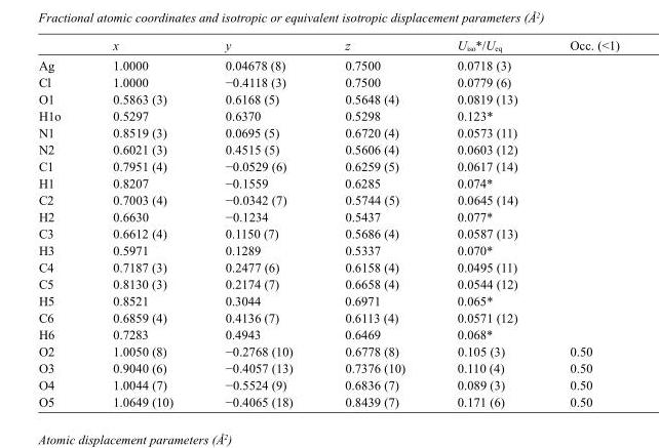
<table><thead><tr><td></td><td>x</td><td>y</td><td>z</td><td>U<sub>iso</sub>*/U<sub>eq</sub></td><td>Occ. (&lt;1)</td></tr></thead><tbody><tr><td>Ag</td><td>1.0000</td><td>0.04678 (8)</td><td>0.7500</td><td>0.0718 (3)</td><td></td></tr><tr><td>Cl</td><td>1.0000</td><td>−0.4118 (3)</td><td>0.7500</td><td>0.0779 (6)</td><td></td></tr><tr><td>O1</td><td>0.5863 (3)</td><td>0.6168 (5)</td><td>0.5648 (4)</td><td>0.0819 (13)</td><td></td></tr><tr><td>H1o</td><td>0.5297</td><td>0.6370</td><td>0.5298</td><td>0.123*</td><td></td></tr><tr><td>N1</td><td>0.8519 (3)</td><td>0.0695 (5)</td><td>0.6720 (4)</td><td>0.0573 (11)</td><td></td></tr><tr><td>N2</td><td>0.6021 (3)</td><td>0.4515 (5)</td><td>0.5606 (4)</td><td>0.0603 (12)</td><td></td></tr><tr><td>C1</td><td>0.7951 (4)</td><td>−0.0529 (6)</td><td>0.6259 (5)</td><td>0.0617 (14)</td><td></td></tr><tr><td>H1</td><td>0.8207</td><td>−0.1559</td><td>0.6285</td><td>0.074*</td><td></td></tr><tr><td>C2</td><td>0.7003 (4)</td><td>−0.0342 (7)</td><td>0.5744 (5)</td><td>0.0645 (14)</td><td></td></tr><tr><td>H2</td><td>0.6630</td><td>−0.1234</td><td>0.5437</td><td>0.077*</td><td></td></tr><tr><td>C3</td><td>0.6612 (4)</td><td>0.1150 (7)</td><td>0.5686 (4)</td><td>0.0587 (13)</td><td></td></tr><tr><td>H3</td><td>0.5971</td><td>0.1289</td><td>0.5337</td><td>0.070*</td><td></td></tr><tr><td>C4</td><td>0.7187 (3)</td><td>0.2477 (6)</td><td>0.6158 (4)</td><td>0.0495 (11)</td><td></td></tr><tr><td>C5</td><td>0.8130 (3)</td><td>0.2174 (7)</td><td>0.6658 (4)</td><td>0.0544 (12)</td><td></td></tr><tr><td>H5</td><td>0.8521</td><td>0.3044</td><td>0.6971</td><td>0.065*</td><td></td></tr><tr><td>C6</td><td>0.6859 (4)</td><td>0.4136 (7)</td><td>0.6113 (4)</td><td>0.0571 (12)</td><td></td></tr><tr><td>H6</td><td>0.7283</td><td>0.4943</td><td>0.6469</td><td>0.068*</td><td></td></tr><tr><td>O2</td><td>1.0050 (8)</td><td>−0.2768 (10)</td><td>0.6778 (8)</td><td>0.105 (3)</td><td>0.50</td></tr><tr><td>O3</td><td>0.9040 (6)</td><td>−0.4057 (13)</td><td>0.7376 (10)</td><td>0.110 (4)</td><td>0.50</td></tr><tr><td>O4</td><td>1.0044 (7)</td><td>−0.5524 (9)</td><td>0.6836 (7)</td><td>0.089 (3)</td><td>0.50</td></tr><tr><td>O5</td><td>1.0649 (10)</td><td>−0.4065 (18)</td><td>0.8439 (7)</td><td>0.171 (6)</td><td>0.50</td></tr></tbody></table>